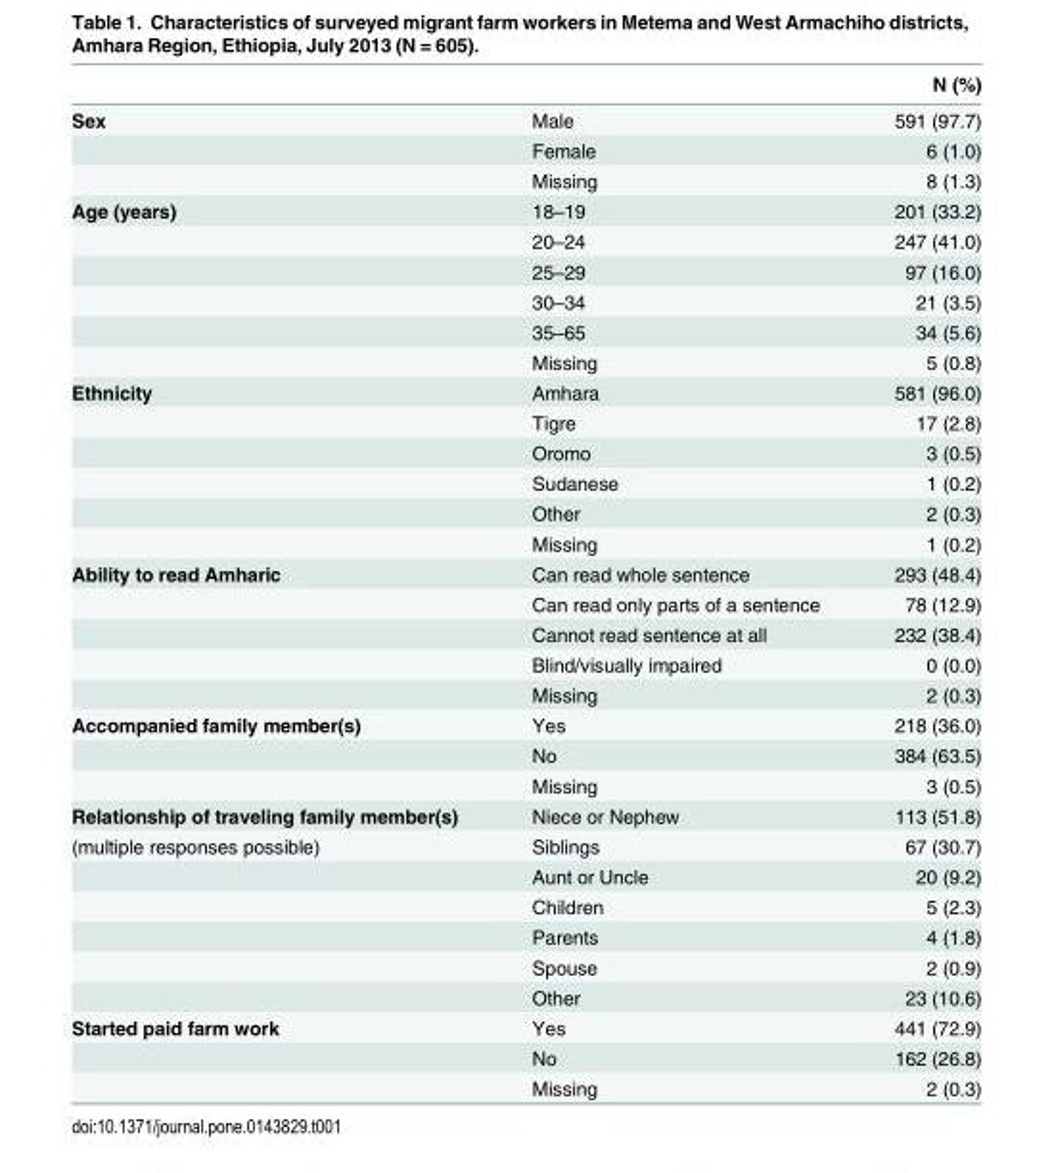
<table><thead><tr><td></td><td></td><td>N (%)</td></tr></thead><tbody><tr><td rowspan="3">Sex</td><td>Male</td><td>591 (97.7)</td></tr><tr><td>Female</td><td>6 (1.0)</td></tr><tr><td>Missing</td><td>8 (1.3)</td></tr><tr><td rowspan="6">Age (years)</td><td>18–19</td><td>201 (33.2)</td></tr><tr><td>20–24</td><td>247 (41.0)</td></tr><tr><td>25–29</td><td>97 (16.0)</td></tr><tr><td>30–34</td><td>21 (3.5)</td></tr><tr><td>35–65</td><td>34 (5.6)</td></tr><tr><td>Missing</td><td>5 (0.8)</td></tr><tr><td rowspan="6">Ethnicity</td><td>Amhara</td><td>581 (96.0)</td></tr><tr><td>Tigre</td><td>17 (2.8)</td></tr><tr><td>Oromo</td><td>3 (0.5)</td></tr><tr><td>Sudanese</td><td>1 (0.2)</td></tr><tr><td>Other</td><td>2 (0.3)</td></tr><tr><td>Missing</td><td>1 (0.2)</td></tr><tr><td rowspan="5">Ability to read Amharic</td><td>Can read whole sentence</td><td>293 (48.4)</td></tr><tr><td>Can read only parts of a sentence</td><td>78 (12.9)</td></tr><tr><td>Cannot read sentence at all</td><td>232 (38.4)</td></tr><tr><td>Blind/visually impaired</td><td>0 (0.0)</td></tr><tr><td>Missing</td><td>2 (0.3)</td></tr><tr><td rowspan="3">Accompanied family member(s)</td><td>Yes</td><td>218 (36.0)</td></tr><tr><td>No</td><td>384 (63.5)</td></tr><tr><td>Missing</td><td>3 (0.5)</td></tr><tr><td>Relationship of traveling family member(s)</td><td>Niece or Nephew</td><td>113 (51.8)</td></tr><tr><td rowspan="6">(multiple responses possible)</td><td>Siblings</td><td>67 (30.7)</td></tr><tr><td>Aunt or Uncle</td><td>20 (9.2)</td></tr><tr><td>Children</td><td>5 (2.3)</td></tr><tr><td>Parents</td><td>4 (1.8)</td></tr><tr><td>Spouse</td><td>2 (0.9)</td></tr><tr><td>Other</td><td>23 (10.6)</td></tr><tr><td rowspan="3">Started paid farm work</td><td>Yes</td><td>441 (72.9)</td></tr><tr><td>No</td><td>162 (26.8)</td></tr><tr><td>Missing</td><td>2 (0.3)</td></tr></tbody></table>